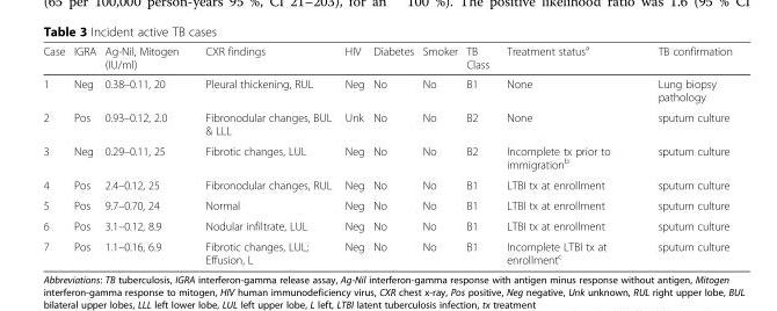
<table><thead><tr><td>Case</td><td>IGRA</td><td>Ag-Nil, Mitogen (IU/ml)</td><td>CXR findings</td><td>HIV</td><td>Diabetes</td><td>Smoker</td><td>TB Class</td><td>Treatment status<sup>a</sup></td><td>TB confirmation</td></tr></thead><tbody><tr><td>1</td><td>Neg</td><td>0.38–0.11, 20</td><td>Pleural thickening, RUL</td><td>Neg</td><td>No</td><td>No</td><td>B1</td><td>None</td><td>Lung biopsy pathology</td></tr><tr><td>2</td><td>Pos</td><td>0.93–0.12, 2.0</td><td>Fibronodular changes, BUL &amp; LLL</td><td>Unk</td><td>No</td><td>No</td><td>B2</td><td>None</td><td>sputum culture</td></tr><tr><td>3</td><td>Neg</td><td>0.29–0.11, 25</td><td>Fibrotic changes, LUL</td><td>Neg</td><td>No</td><td>No</td><td>B2</td><td>Incomplete tx prior to immigration<sup>b</sup></td><td>sputum culture</td></tr><tr><td>4</td><td>Pos</td><td>2.4–0.12, 25</td><td>Fibronodular changes, RUL</td><td>Neg</td><td>No</td><td>No</td><td>B1</td><td>LTBI tx at enrollment</td><td>sputum culture</td></tr><tr><td>5</td><td>Pos</td><td>9.7–0.70, 24</td><td>Normal</td><td>Neg</td><td>No</td><td>No</td><td>B1</td><td>LTBI tx at enrollment</td><td>sputum culture</td></tr><tr><td>6</td><td>Pos</td><td>3.1–0.12, 8.9</td><td>Nodular infiltrate, LUL</td><td>Neg</td><td>No</td><td>No</td><td>B1</td><td>LTBI tx at enrollment</td><td>sputum culture</td></tr><tr><td>7</td><td>Pos</td><td>1.1–0.16, 6.9</td><td>Fibrotic changes, LUL; Effusion, L</td><td>Neg</td><td>No</td><td>No</td><td>B1</td><td>Incomplete LTBI tx at enrollment<sup>c</sup></td><td>sputum culture</td></tr></tbody></table>